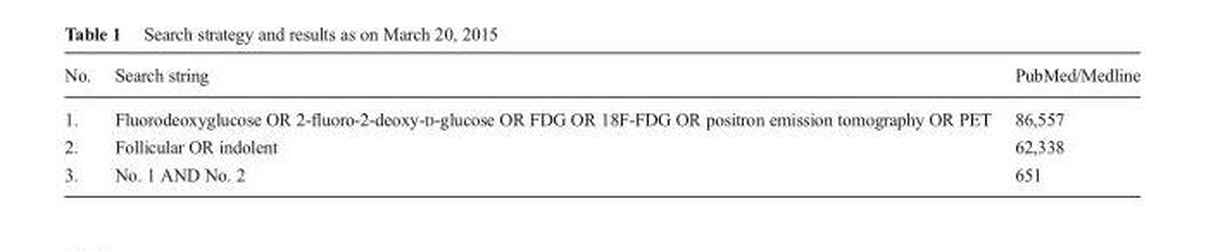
<table><thead><tr><td>No.</td><td>Search string</td><td>PubMed/Medline</td></tr></thead><tbody><tr><td>1.</td><td>Fluorodeoxyglucose OR 2-fluoro-2-deoxy-D-glucose OR FDG OR 18F-FDG OR positron emission tomography OR PET</td><td>86,557</td></tr><tr><td>2.</td><td>Follicular OR indolent</td><td>62,338</td></tr><tr><td>3.</td><td>No. 1 AND No. 2</td><td>651</td></tr></tbody></table>